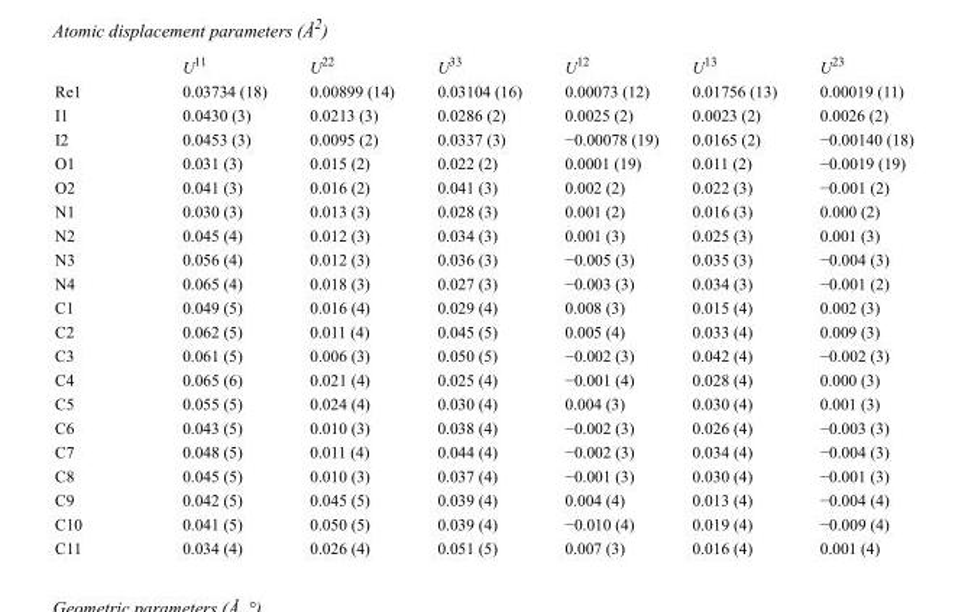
<table><thead><tr><td></td><td>U<sup>11</sup></td><td>U<sup>22</sup></td><td>U<sup>33</sup></td><td>U<sup>12</sup></td><td>U<sup>13</sup></td><td>U<sup>23</sup></td></tr></thead><tbody><tr><td>Re1</td><td>0.03734 (18)</td><td>0.00899 (14)</td><td>0.03104 (16)</td><td>0.00073 (12)</td><td>0.01756 (13)</td><td>0.00019 (11)</td></tr><tr><td>I1</td><td>0.0430 (3)</td><td>0.0213 (3)</td><td>0.0286 (2)</td><td>0.0025 (2)</td><td>0.0023 (2)</td><td>0.0026 (2)</td></tr><tr><td>I2</td><td>0.0453 (3)</td><td>0.0095 (2)</td><td>0.0337 (3)</td><td>−0.00078 (19)</td><td>0.0165 (2)</td><td>−0.00140 (18)</td></tr><tr><td>O1</td><td>0.031 (3)</td><td>0.015 (2)</td><td>0.022 (2)</td><td>0.0001 (19)</td><td>0.011 (2)</td><td>−0.0019 (19)</td></tr><tr><td>O2</td><td>0.041 (3)</td><td>0.016 (2)</td><td>0.041 (3)</td><td>0.002 (2)</td><td>0.022 (3)</td><td>−0.001 (2)</td></tr><tr><td>N1</td><td>0.030 (3)</td><td>0.013 (3)</td><td>0.028 (3)</td><td>0.001 (2)</td><td>0.016 (3)</td><td>0.000 (2)</td></tr><tr><td>N2</td><td>0.045 (4)</td><td>0.012 (3)</td><td>0.034 (3)</td><td>0.001 (3)</td><td>0.025 (3)</td><td>0.001 (3)</td></tr><tr><td>N3</td><td>0.056 (4)</td><td>0.012 (3)</td><td>0.036 (3)</td><td>−0.005 (3)</td><td>0.035 (3)</td><td>−0.004 (3)</td></tr><tr><td>N4</td><td>0.065 (4)</td><td>0.018 (3)</td><td>0.027 (3)</td><td>−0.003 (3)</td><td>0.034 (3)</td><td>−0.001 (2)</td></tr><tr><td>C1</td><td>0.049 (5)</td><td>0.016 (4)</td><td>0.029 (4)</td><td>0.008 (3)</td><td>0.015 (4)</td><td>0.002 (3)</td></tr><tr><td>C2</td><td>0.062 (5)</td><td>0.011 (4)</td><td>0.045 (5)</td><td>0.005 (4)</td><td>0.033 (4)</td><td>0.009 (3)</td></tr><tr><td>C3</td><td>0.061 (5)</td><td>0.006 (3)</td><td>0.050 (5)</td><td>−0.002 (3)</td><td>0.042 (4)</td><td>−0.002 (3)</td></tr><tr><td>C4</td><td>0.065 (6)</td><td>0.021 (4)</td><td>0.025 (4)</td><td>−0.001 (4)</td><td>0.028 (4)</td><td>0.000 (3)</td></tr><tr><td>C5</td><td>0.055 (5)</td><td>0.024 (4)</td><td>0.030 (4)</td><td>0.004 (3)</td><td>0.030 (4)</td><td>0.001 (3)</td></tr><tr><td>C6</td><td>0.043 (5)</td><td>0.010 (3)</td><td>0.038 (4)</td><td>−0.002 (3)</td><td>0.026 (4)</td><td>−0.003 (3)</td></tr><tr><td>C7</td><td>0.048 (5)</td><td>0.011 (4)</td><td>0.044 (4)</td><td>−0.002 (3)</td><td>0.034 (4)</td><td>−0.004 (3)</td></tr><tr><td>C8</td><td>0.045 (5)</td><td>0.010 (3)</td><td>0.037 (4)</td><td>−0.001 (3)</td><td>0.030 (4)</td><td>−0.001 (3)</td></tr><tr><td>C9</td><td>0.042 (5)</td><td>0.045 (5)</td><td>0.039 (4)</td><td>0.004 (4)</td><td>0.013 (4)</td><td>−0.004 (4)</td></tr><tr><td>C10</td><td>0.041 (5)</td><td>0.050 (5)</td><td>0.039 (4)</td><td>−0.010 (4)</td><td>0.019 (4)</td><td>−0.009 (4)</td></tr><tr><td>C11</td><td>0.034 (4)</td><td>0.026 (4)</td><td>0.051 (5)</td><td>0.007 (3)</td><td>0.016 (4)</td><td>0.001 (4)</td></tr></tbody></table>